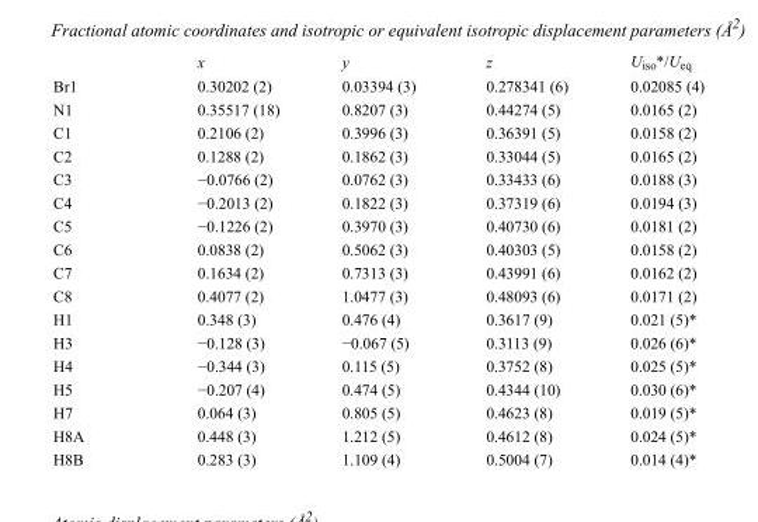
<table><thead><tr><td></td><td>x</td><td>y</td><td>z</td><td>U<sub>iso</sub>*/U<sub>eq</sub></td></tr></thead><tbody><tr><td>Br1</td><td>0.30202 (2)</td><td>0.03394 (3)</td><td>0.278341 (6)</td><td>0.02085 (4)</td></tr><tr><td>N1</td><td>0.35517 (18)</td><td>0.8207 (3)</td><td>0.44274 (5)</td><td>0.0165 (2)</td></tr><tr><td>C1</td><td>0.2106 (2)</td><td>0.3996 (3)</td><td>0.36391 (5)</td><td>0.0158 (2)</td></tr><tr><td>C2</td><td>0.1288 (2)</td><td>0.1862 (3)</td><td>0.33044 (5)</td><td>0.0165 (2)</td></tr><tr><td>C3</td><td>−0.0766 (2)</td><td>0.0762 (3)</td><td>0.33433 (6)</td><td>0.0188 (3)</td></tr><tr><td>C4</td><td>−0.2013 (2)</td><td>0.1822 (3)</td><td>0.37319 (6)</td><td>0.0194 (3)</td></tr><tr><td>C5</td><td>−0.1226 (2)</td><td>0.3970 (3)</td><td>0.40730 (6)</td><td>0.0181 (2)</td></tr><tr><td>C6</td><td>0.0838 (2)</td><td>0.5062 (3)</td><td>0.40303 (5)</td><td>0.0158 (2)</td></tr><tr><td>C7</td><td>0.1634 (2)</td><td>0.7313 (3)</td><td>0.43991 (6)</td><td>0.0162 (2)</td></tr><tr><td>C8</td><td>0.4077 (2)</td><td>1.0477 (3)</td><td>0.48093 (6)</td><td>0.0171 (2)</td></tr><tr><td>H1</td><td>0.348 (3)</td><td>0.476 (4)</td><td>0.3617 (9)</td><td>0.021 (5)*</td></tr><tr><td>H3</td><td>−0.128 (3)</td><td>−0.067 (5)</td><td>0.3113 (9)</td><td>0.026 (6)*</td></tr><tr><td>H4</td><td>−0.344 (3)</td><td>0.115 (5)</td><td>0.3752 (8)</td><td>0.025 (5)*</td></tr><tr><td>H5</td><td>−0.207 (4)</td><td>0.474 (5)</td><td>0.4344 (10)</td><td>0.030 (6)*</td></tr><tr><td>H7</td><td>0.064 (3)</td><td>0.805 (5)</td><td>0.4623 (8)</td><td>0.019 (5)*</td></tr><tr><td>H8A</td><td>0.448 (3)</td><td>1.212 (5)</td><td>0.4612 (8)</td><td>0.024 (5)*</td></tr><tr><td>H8B</td><td>0.283 (3)</td><td>1.109 (4)</td><td>0.5004 (7)</td><td>0.014 (4)*</td></tr></tbody></table>